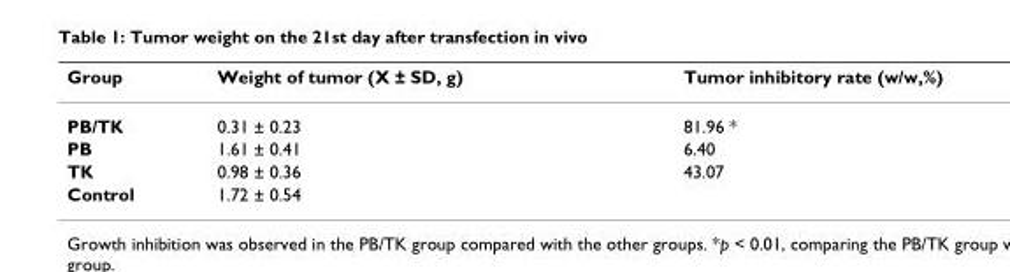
<table><thead><tr><td>Group</td><td>Weight of tumor (X ± SD, g)</td><td>Tumor inhibitory rate (w/w,%)</td></tr></thead><tbody><tr><td>PB/TK</td><td>0.31 ± 0.23</td><td>81.96 *</td></tr><tr><td>PB</td><td>1.61 ± 0.41</td><td>6.40</td></tr><tr><td>TK</td><td>0.98 ± 0.36</td><td>43.07</td></tr><tr><td>Control</td><td>1.72 ± 0.54</td><td></td></tr></tbody></table>